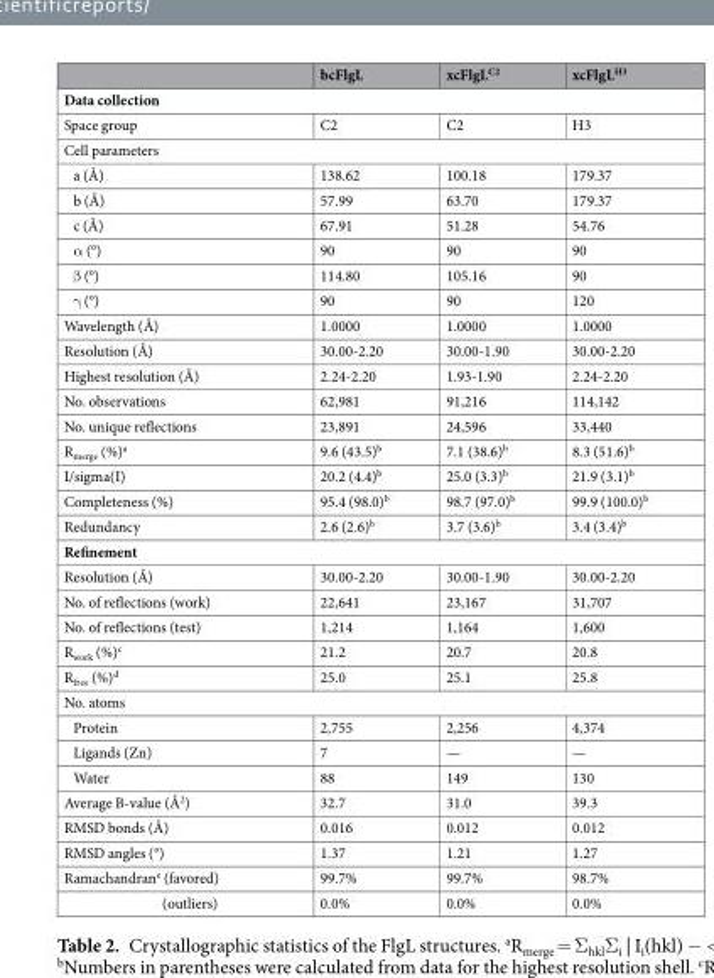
<table><thead><tr><td></td><td>bcFlgL</td><td>xcFlgL<sup>C2</sup></td><td>xcFlgL<sup>H3</sup></td></tr></thead><tbody><tr><td colspan="4">Data collection</td></tr><tr><td>Space group</td><td>C2</td><td>C2</td><td>H3</td></tr><tr><td colspan="4">Cell parameters</td></tr><tr><td>a (Å)</td><td>138.62</td><td>100.18</td><td>179.37</td></tr><tr><td>b (Å)</td><td>57.99</td><td>63.70</td><td>179.37</td></tr><tr><td>c (Å)</td><td>67.91</td><td>51.28</td><td>54.76</td></tr><tr><td>α (°)</td><td>90</td><td>90</td><td>90</td></tr><tr><td>β (°)</td><td>114.80</td><td>105.16</td><td>90</td></tr><tr><td>γ (°)</td><td>90</td><td>90</td><td>120</td></tr><tr><td>Wavelength (Å)</td><td>1.0000</td><td>1.0000</td><td>1.0000</td></tr><tr><td>Resolution (Å)</td><td>30.00-2.20</td><td>30.00-1.90</td><td>30.00-2.20</td></tr><tr><td>Highest resolution (Å)</td><td>2.24-2.20</td><td>1.93-1.90</td><td>2.24-2.20</td></tr><tr><td>No. observations</td><td>62,981</td><td>91,216</td><td>114,142</td></tr><tr><td>No. unique reflections</td><td>23,891</td><td>24,596</td><td>33,440</td></tr><tr><td>R<sub>merge</sub> (%)<sup>a</sup></td><td>9.6 (43.5)<sup>b</sup></td><td>7.1 (38.6)<sup>b</sup></td><td>8.3 (51.6)<sup>b</sup></td></tr><tr><td>I/sigma(I)</td><td>20.2 (4.4)<sup>b</sup></td><td>25.0 (3.3)<sup>b</sup></td><td>21.9 (3.1)<sup>b</sup></td></tr><tr><td>Completeness (%)</td><td>95.4 (98.0)<sup>b</sup></td><td>98.7 (97.0)<sup>b</sup></td><td>99.9 (100.0)<sup>b</sup></td></tr><tr><td>Redundancy</td><td>2.6 (2.6)<sup>b</sup></td><td>3.7 (3.6)<sup>b</sup></td><td>3.4 (3.4)<sup>b</sup></td></tr><tr><td colspan="4">Refinement</td></tr><tr><td>Resolution (Å)</td><td>30.00-2.20</td><td>30.00-1.90</td><td>30.00-2.20</td></tr><tr><td>No. of reflections (work)</td><td>22,641</td><td>23,167</td><td>31,707</td></tr><tr><td>No. of reflections (test)</td><td>1,214</td><td>1,164</td><td>1,600</td></tr><tr><td>R<sub>work</sub> (%)<sup>c</sup></td><td>21.2</td><td>20.7</td><td>20.8</td></tr><tr><td>R<sub>free</sub> (%)<sup>d</sup></td><td>25.0</td><td>25.1</td><td>25.8</td></tr><tr><td colspan="4">No. atoms</td></tr><tr><td>Protein</td><td>2,755</td><td>2,256</td><td>4,374</td></tr><tr><td>Ligands (Zn)</td><td>7</td><td>—</td><td>—</td></tr><tr><td>Water</td><td>88</td><td>149</td><td>130</td></tr><tr><td>Average B-value (Å<sup>2</sup>)</td><td>32.7</td><td>31.0</td><td>39.3</td></tr><tr><td>RMSD bonds (Å)</td><td>0.016</td><td>0.012</td><td>0.012</td></tr><tr><td>RMSD angles (°)</td><td>1.37</td><td>1.21</td><td>1.27</td></tr><tr><td>Ramachandran<sup>e</sup> (favored)</td><td>99.7%</td><td>99.7%</td><td>98.7%</td></tr><tr><td>(outliers)</td><td>0.0%</td><td>0.0%</td><td>0.0%</td></tr></tbody></table>